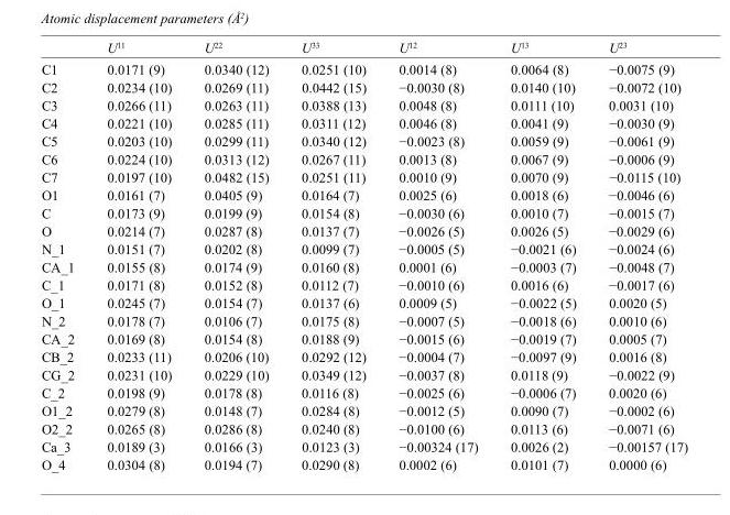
<table><thead><tr><td></td><td>U<sup>11</sup></td><td>U<sup>22</sup></td><td>U<sup>33</sup></td><td>U<sup>12</sup></td><td>U<sup>13</sup></td><td>U<sup>23</sup></td></tr></thead><tbody><tr><td>C1</td><td>0.0171 (9)</td><td>0.0340 (12)</td><td>0.0251 (10)</td><td>0.0014 (8)</td><td>0.0064 (8)</td><td>−0.0075 (9)</td></tr><tr><td>C2</td><td>0.0234 (10)</td><td>0.0269 (11)</td><td>0.0442 (15)</td><td>−0.0030 (8)</td><td>0.0140 (10)</td><td>−0.0072 (10)</td></tr><tr><td>C3</td><td>0.0266 (11)</td><td>0.0263 (11)</td><td>0.0388 (13)</td><td>0.0048 (8)</td><td>0.0111 (10)</td><td>0.0031 (10)</td></tr><tr><td>C4</td><td>0.0221 (10)</td><td>0.0285 (11)</td><td>0.0311 (12)</td><td>0.0046 (8)</td><td>0.0041 (9)</td><td>−0.0030 (9)</td></tr><tr><td>C5</td><td>0.0203 (10)</td><td>0.0299 (11)</td><td>0.0340 (12)</td><td>−0.0023 (8)</td><td>0.0059 (9)</td><td>−0.0061 (9)</td></tr><tr><td>C6</td><td>0.0224 (10)</td><td>0.0313 (12)</td><td>0.0267 (11)</td><td>0.0013 (8)</td><td>0.0067 (9)</td><td>−0.0006 (9)</td></tr><tr><td>C7</td><td>0.0197 (10)</td><td>0.0482 (15)</td><td>0.0251 (11)</td><td>0.0010 (9)</td><td>0.0070 (9)</td><td>−0.0115 (10)</td></tr><tr><td>O1</td><td>0.0161 (7)</td><td>0.0405 (9)</td><td>0.0164 (7)</td><td>0.0025 (6)</td><td>0.0018 (6)</td><td>−0.0046 (6)</td></tr><tr><td>C</td><td>0.0173 (9)</td><td>0.0199 (9)</td><td>0.0154 (8)</td><td>−0.0030 (6)</td><td>0.0010 (7)</td><td>−0.0015 (7)</td></tr><tr><td>O</td><td>0.0214 (7)</td><td>0.0287 (8)</td><td>0.0137 (7)</td><td>−0.0026 (5)</td><td>0.0026 (5)</td><td>−0.0029 (6)</td></tr><tr><td>N_1</td><td>0.0151 (7)</td><td>0.0202 (8)</td><td>0.0099 (7)</td><td>−0.0005 (5)</td><td>−0.0021 (6)</td><td>−0.0024 (6)</td></tr><tr><td>CA_1</td><td>0.0155 (8)</td><td>0.0174 (9)</td><td>0.0160 (8)</td><td>0.0001 (6)</td><td>−0.0003 (7)</td><td>−0.0048 (7)</td></tr><tr><td>C_1</td><td>0.0171 (8)</td><td>0.0152 (8)</td><td>0.0112 (7)</td><td>−0.0010 (6)</td><td>0.0016 (6)</td><td>−0.0017 (6)</td></tr><tr><td>O_1</td><td>0.0245 (7)</td><td>0.0154 (7)</td><td>0.0137 (6)</td><td>0.0009 (5)</td><td>−0.0022 (5)</td><td>0.0020 (5)</td></tr><tr><td>N_2</td><td>0.0178 (7)</td><td>0.0106 (7)</td><td>0.0175 (8)</td><td>−0.0007 (5)</td><td>−0.0018 (6)</td><td>0.0010 (6)</td></tr><tr><td>CA_2</td><td>0.0169 (8)</td><td>0.0154 (8)</td><td>0.0188 (9)</td><td>−0.0015 (6)</td><td>−0.0019 (7)</td><td>0.0005 (7)</td></tr><tr><td>CB_2</td><td>0.0233 (11)</td><td>0.0206 (10)</td><td>0.0292 (12)</td><td>−0.0004 (7)</td><td>−0.0097 (9)</td><td>0.0016 (8)</td></tr><tr><td>CG_2</td><td>0.0231 (10)</td><td>0.0229 (10)</td><td>0.0349 (12)</td><td>−0.0037 (8)</td><td>0.0118 (9)</td><td>−0.0022 (9)</td></tr><tr><td>C_2</td><td>0.0198 (9)</td><td>0.0178 (8)</td><td>0.0116 (8)</td><td>−0.0025 (6)</td><td>−0.0006 (7)</td><td>0.0020 (6)</td></tr><tr><td>O1_2</td><td>0.0279 (8)</td><td>0.0148 (7)</td><td>0.0284 (8)</td><td>−0.0012 (5)</td><td>0.0090 (7)</td><td>−0.0002 (6)</td></tr><tr><td>O2_2</td><td>0.0265 (8)</td><td>0.0286 (8)</td><td>0.0240 (8)</td><td>−0.0100 (6)</td><td>0.0113 (6)</td><td>−0.0071 (6)</td></tr><tr><td>Ca_3</td><td>0.0189 (3)</td><td>0.0166 (3)</td><td>0.0123 (3)</td><td>−0.00324 (17)</td><td>0.0026 (2)</td><td>−0.00157 (17)</td></tr><tr><td>O_4</td><td>0.0304 (8)</td><td>0.0194 (7)</td><td>0.0290 (8)</td><td>0.0002 (6)</td><td>0.0101 (7)</td><td>0.0000 (6)</td></tr></tbody></table>